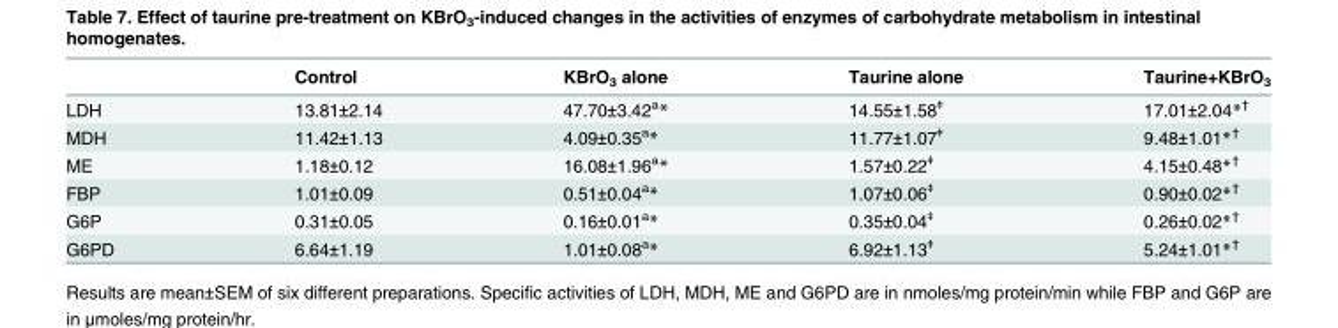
<table><thead><tr><td></td><td>Control</td><td>KBrO<sub>3</sub> alone</td><td>Taurine alone</td><td>Taurine+KBrO<sub>3</sub></td></tr></thead><tbody><tr><td>LDH</td><td>13.81±2.14</td><td>47.70±3.42<sup>a</sup>*</td><td>14.55±1.58<sup>ǂ</sup></td><td>17.01±2.04*<sup>†</sup></td></tr><tr><td>MDH</td><td>11.42±1.13</td><td>4.09±0.35<sup>a</sup>*</td><td>11.77±1.07<sup>ǂ</sup></td><td>9.48±1.01*<sup>†</sup></td></tr><tr><td>ME</td><td>1.18±0.12</td><td>16.08±1.96<sup>a</sup>*</td><td>1.57±0.22<sup>ǂ</sup></td><td>4.15±0.48*<sup>†</sup></td></tr><tr><td>FBP</td><td>1.01±0.09</td><td>0.51±0.04<sup>a</sup>*</td><td>1.07±0.06<sup>ǂ</sup></td><td>0.90±0.02*<sup>†</sup></td></tr><tr><td>G6P</td><td>0.31±0.05</td><td>0.16±0.01<sup>a</sup>*</td><td>0.35±0.04<sup>ǂ</sup></td><td>0.26±0.02*<sup>†</sup></td></tr><tr><td>G6PD</td><td>6.64±1.19</td><td>1.01±0.08<sup>a</sup>*</td><td>6.92±1.13<sup>ǂ</sup></td><td>5.24±1.01*<sup>†</sup></td></tr></tbody></table>